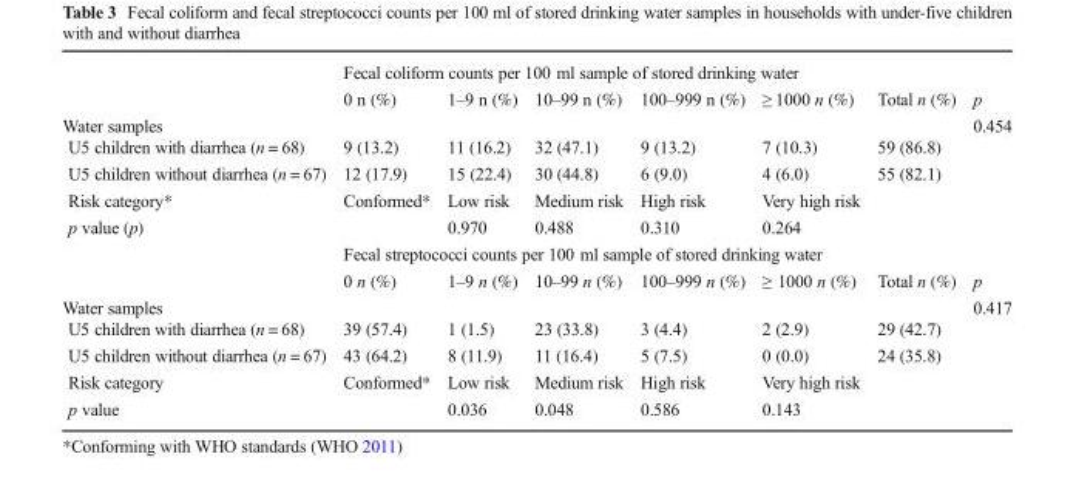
<table><thead><tr><td rowspan="2"></td><td colspan="7">Fecal coliform counts per 100 ml sample of stored drinking water</td></tr><tr><td>0 n (%)</td><td>1–9 n (%)</td><td>10–99 n (%)</td><td>100–999 n (%)</td><td>≥ 1000 n (%)</td><td>Total n (%)</td><td>p</td></tr></thead><tbody><tr><td colspan="7">Water samples</td><td rowspan="3">0.454</td></tr><tr><td>U5 children with diarrhea (n = 68)</td><td>9 (13.2)</td><td>11 (16.2)</td><td>32 (47.1)</td><td>9 (13.2)</td><td>7 (10.3)</td><td>59 (86.8)</td></tr><tr><td>U5 children without diarrhea (n = 67)</td><td>12 (17.9)</td><td>15 (22.4)</td><td>30 (44.8)</td><td>6 (9.0)</td><td>4 (6.0)</td><td>55 (82.1)</td></tr><tr><td>Risk category*</td><td>Conformed*</td><td>Low risk</td><td>Medium risk</td><td>High risk</td><td>Very high risk</td><td></td><td></td></tr><tr><td rowspan="3">p value (p)</td><td></td><td>0.970</td><td>0.488</td><td>0.310</td><td>0.264</td><td></td><td></td></tr><tr><td colspan="7">Fecal streptococci counts per 100 ml sample of stored drinking water</td></tr><tr><td>0 n (%)</td><td>1–9 n (%)</td><td>10–99 n (%)</td><td>100–999 n (%)</td><td>≥ 1000 n (%)</td><td>Total n (%)</td><td>p</td></tr><tr><td colspan="7">Water samples</td><td rowspan="5">0.417</td></tr><tr><td>U5 children with diarrhea (n = 68)</td><td>39 (57.4)</td><td>1 (1.5)</td><td>23 (33.8)</td><td>3 (4.4)</td><td>2 (2.9)</td><td>29 (42.7)</td></tr><tr><td>U5 children without diarrhea (n = 67)</td><td>43 (64.2)</td><td>8 (11.9)</td><td>11 (16.4)</td><td>5 (7.5)</td><td>0 (0.0)</td><td>24 (35.8)</td></tr><tr><td>Risk category</td><td>Conformed*</td><td>Low risk</td><td>Medium risk</td><td>High risk</td><td>Very high risk</td><td></td></tr><tr><td>p value</td><td></td><td>0.036</td><td>0.048</td><td>0.586</td><td>0.143</td><td></td></tr></tbody></table>